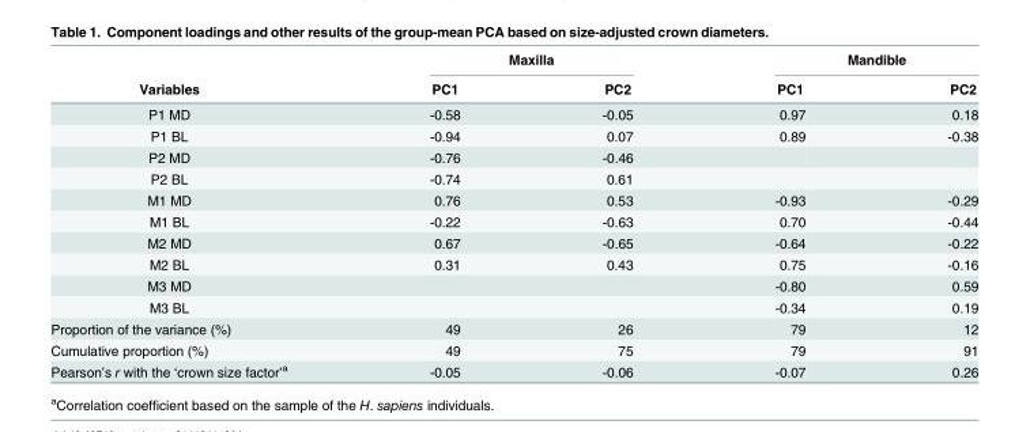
<table><thead><tr><td rowspan="2">Variables</td><td colspan="2">Maxilla</td><td colspan="2">Mandible</td></tr><tr><td>PC1</td><td>PC2</td><td>PC1</td><td>PC2</td></tr></thead><tbody><tr><td>P1 MD</td><td>-0.58</td><td>-0.05</td><td>0.97</td><td>0.18</td></tr><tr><td>P1 BL</td><td>-0.94</td><td>0.07</td><td>0.89</td><td>-0.38</td></tr><tr><td>P2 MD</td><td>-0.76</td><td>-0.46</td><td></td><td></td></tr><tr><td>P2 BL</td><td>-0.74</td><td>0.61</td><td></td><td></td></tr><tr><td>M1 MD</td><td>0.76</td><td>0.53</td><td>-0.93</td><td>-0.29</td></tr><tr><td>M1 BL</td><td>-0.22</td><td>-0.63</td><td>0.70</td><td>-0.44</td></tr><tr><td>M2 MD</td><td>0.67</td><td>-0.65</td><td>-0.64</td><td>-0.22</td></tr><tr><td>M2 BL</td><td>0.31</td><td>0.43</td><td>0.75</td><td>-0.16</td></tr><tr><td>M3 MD</td><td></td><td></td><td>-0.80</td><td>0.59</td></tr><tr><td>M3 BL</td><td></td><td></td><td>-0.34</td><td>0.19</td></tr><tr><td>Proportion of the variance (%)</td><td>49</td><td>26</td><td>79</td><td>12</td></tr><tr><td>Cumulative proportion (%)</td><td>49</td><td>75</td><td>79</td><td>91</td></tr><tr><td>Pearson’s r with the ‘crown size factor’<sup>a</sup></td><td>-0.05</td><td>-0.06</td><td>-0.07</td><td>0.26</td></tr></tbody></table>